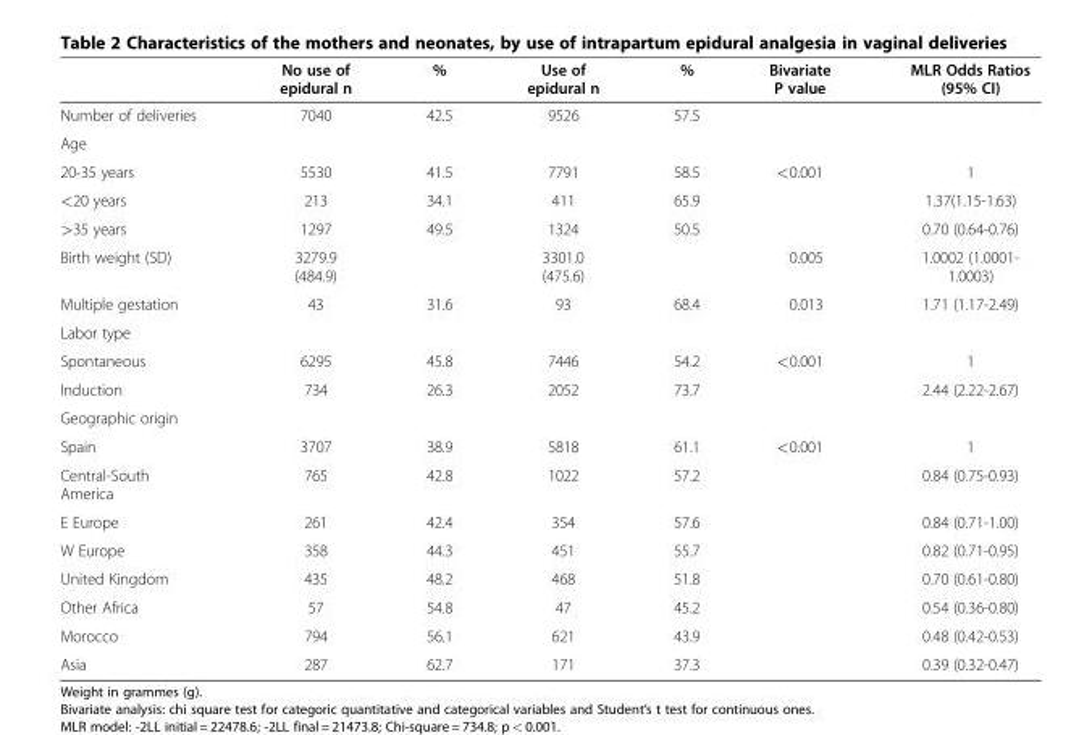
<table><thead><tr><td></td><td>No use of epidural n</td><td>%</td><td>Use of epidural n</td><td>%</td><td>Bivariate P value</td><td>MLR Odds Ratios (95% CI)</td></tr></thead><tbody><tr><td>Number of deliveries</td><td>7040</td><td>42.5</td><td>9526</td><td>57.5</td><td></td><td></td></tr><tr><td colspan="7">Age</td></tr><tr><td>20-35 years</td><td>5530</td><td>41.5</td><td>7791</td><td>58.5</td><td rowspan="3">&lt;0.001</td><td>1</td></tr><tr><td>&lt;20 years</td><td>213</td><td>34.1</td><td>411</td><td>65.9</td><td>1.37(1.15-1.63)</td></tr><tr><td>&gt;35 years</td><td>1297</td><td>49.5</td><td>1324</td><td>50.5</td><td>0.70 (0.64-0.76)</td></tr><tr><td>Birth weight (SD)</td><td>3279.9 (484.9)</td><td></td><td>3301.0 (475.6)</td><td></td><td>0.005</td><td>1.0002 (1.0001- 1.0003)</td></tr><tr><td>Multiple gestation</td><td>43</td><td>31.6</td><td>93</td><td>68.4</td><td>0.013</td><td>1.71 (1.17-2.49)</td></tr><tr><td colspan="7">Labor type</td></tr><tr><td>Spontaneous</td><td>6295</td><td>45.8</td><td>7446</td><td>54.2</td><td>&lt;0.001</td><td>1</td></tr><tr><td>Induction</td><td>734</td><td>26.3</td><td>2052</td><td>73.7</td><td></td><td>2.44 (2.22-2.67)</td></tr><tr><td colspan="7">Geographic origin</td></tr><tr><td>Spain</td><td>3707</td><td>38.9</td><td>5818</td><td>61.1</td><td>&lt;0.001</td><td>1</td></tr><tr><td>Central-South America</td><td>765</td><td>42.8</td><td>1022</td><td>57.2</td><td></td><td>0.84 (0.75-0.93)</td></tr><tr><td>E Europe</td><td>261</td><td>42.4</td><td>354</td><td>57.6</td><td></td><td>0.84 (0.71-1.00)</td></tr><tr><td>W Europe</td><td>358</td><td>44.3</td><td>451</td><td>55.7</td><td></td><td>0.82 (0.71-0.95)</td></tr><tr><td>United Kingdom</td><td>435</td><td>48.2</td><td>468</td><td>51.8</td><td></td><td>0.70 (0.61-0.80)</td></tr><tr><td>Other Africa</td><td>57</td><td>54.8</td><td>47</td><td>45.2</td><td></td><td>0.54 (0.36-0.80)</td></tr><tr><td>Morocco</td><td>794</td><td>56.1</td><td>621</td><td>43.9</td><td></td><td>0.48 (0.42-0.53)</td></tr><tr><td>Asia</td><td>287</td><td>62.7</td><td>171</td><td>37.3</td><td></td><td>0.39 (0.32-0.47)</td></tr></tbody></table>